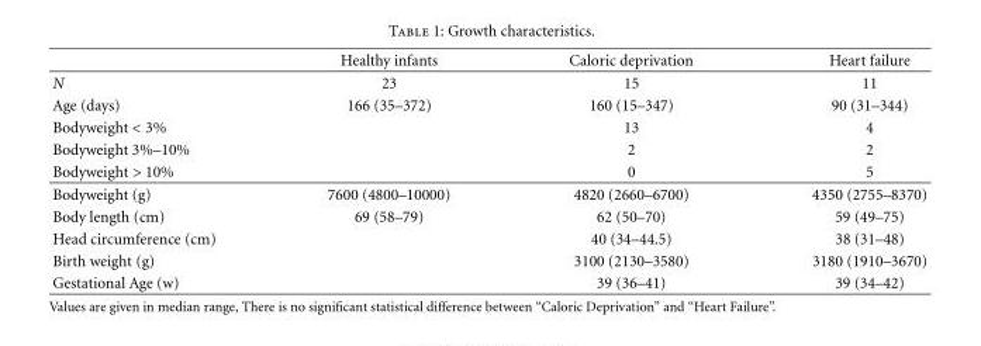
<table><thead><tr><td></td><td>Healthy infants</td><td>Caloric deprivation</td><td>Heart failure</td></tr></thead><tbody><tr><td>N</td><td>23</td><td>15</td><td>11</td></tr><tr><td>Age (days)</td><td>166 (35–372)</td><td>160 (15–347)</td><td>90 (31–344)</td></tr><tr><td>Bodyweight &lt; 3%</td><td></td><td>13</td><td>4</td></tr><tr><td>Bodyweight 3%–10%</td><td></td><td>2</td><td>2</td></tr><tr><td>Bodyweight &gt; 10%</td><td></td><td>0</td><td>5</td></tr><tr><td>Bodyweight (g)</td><td>7600 (4800–10000)</td><td>4820 (2660–6700)</td><td>4350 (2755–8370)</td></tr><tr><td>Body length (cm)</td><td>69 (58–79)</td><td>62 (50–70)</td><td>59 (49–75)</td></tr><tr><td>Head circumference (cm)</td><td></td><td>40 (34–44.5)</td><td>38 (31–48)</td></tr><tr><td>Birth weight (g)</td><td></td><td>3100 (2130–3580)</td><td>3180 (1910–3670)</td></tr><tr><td>Gestational Age (w)</td><td></td><td>39 (36–41)</td><td>39 (34–42)</td></tr></tbody></table>